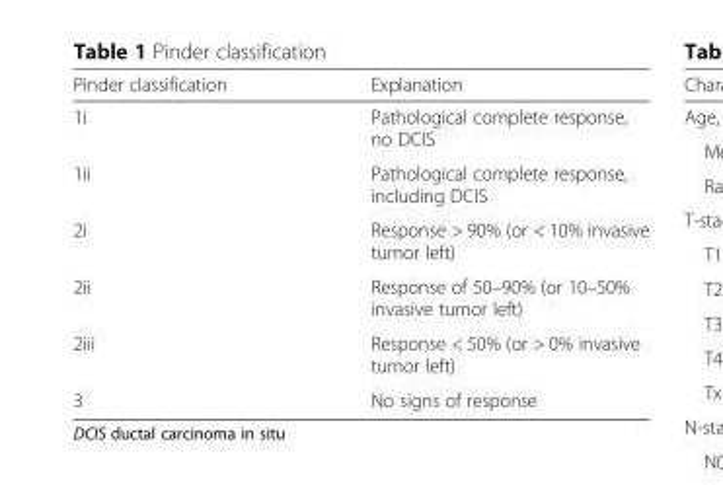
<table><thead><tr><td>Pinder classification</td><td>Explanation</td></tr></thead><tbody><tr><td>1i</td><td>Pathological complete response, no DCIS</td></tr><tr><td>1ii</td><td>Pathological complete response, including DCIS</td></tr><tr><td>2i</td><td>Response &gt; 90% (or &lt; 10% invasive tumor left)</td></tr><tr><td>2ii</td><td>Response of 50–90% (or 10–50% invasive tumor left)</td></tr><tr><td>2iii</td><td>Response &lt; 50% (or &gt; 0% invasive tumor left)</td></tr><tr><td>3</td><td>No signs of response</td></tr></tbody></table>